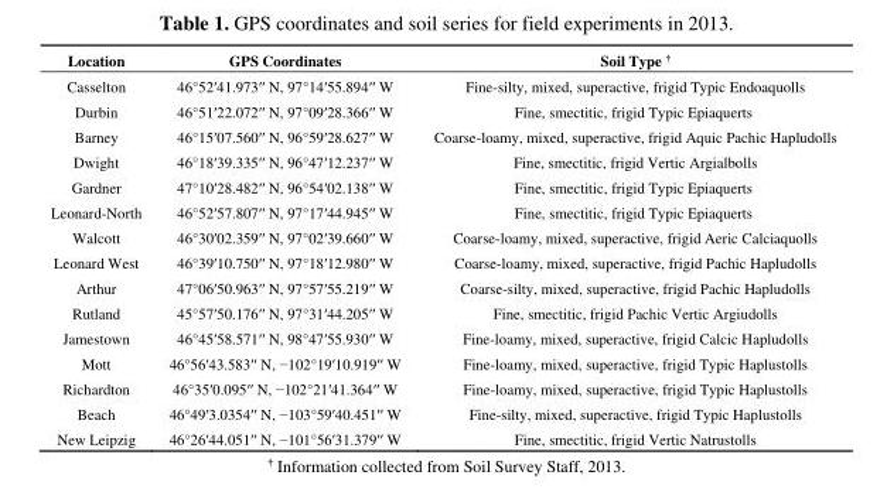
<table><thead><tr><td>Location</td><td>GPS Coordinates</td><td>Soil Type <sup>†</sup></td></tr></thead><tbody><tr><td>Casselton</td><td>46°52′41.973′′ N, 97°14′55.894′′ W</td><td>Fine-silty, mixed, superactive, frigid Typic Endoaquolls</td></tr><tr><td>Durbin</td><td>46°51′22.072′′ N, 97°09′28.366′′ W</td><td>Fine, smectitic, frigid Typic Epiaquerts</td></tr><tr><td>Barney</td><td>46°15′07.560′′ N, 96°59′28.627′′ W</td><td>Coarse-loamy, mixed, superactive, frigid Aquic Pachic Hapludolls</td></tr><tr><td>Dwight</td><td>46°18′39.335′′ N, 96°47′12.237′′ W</td><td>Fine, smectitic, frigid Vertic Argialbolls</td></tr><tr><td>Gardner</td><td>47°10′28.482′′ N, 96°54′02.138′′ W</td><td>Fine, smectitic, frigid Typic Epiaquerts</td></tr><tr><td>Leonard-North</td><td>46°52′57.807′′ N, 97°17′44.945′′ W</td><td>Fine, smectitic, frigid Typic Epiaquerts</td></tr><tr><td>Walcott</td><td>46°30′02.359′′ N, 97°02′39.660′′ W</td><td>Coarse-loamy, mixed, superactive, frigid Aeric Calciaquolls</td></tr><tr><td>Leonard West</td><td>46°39′10.750′′ N, 97°18′12.980′′ W</td><td>Coarse-loamy, mixed, superactive, frigid Pachic Hapludolls</td></tr><tr><td>Arthur</td><td>47°06′50.963′′ N, 97°57′55.219′′ W</td><td>Coarse-silty, mixed, superactive, frigid Pachic Hapludolls</td></tr><tr><td>Rutland</td><td>45°57′50.176′′ N, 97°31′44.205′′ W</td><td>Fine, smectitic, frigid Pachic Vertic Argiudolls</td></tr><tr><td>Jamestown</td><td>46°45′58.571′′ N, 98°47′55.930′′ W</td><td>Fine-loamy, mixed, superactive, frigid Calcic Hapludolls</td></tr><tr><td>Mott</td><td>46°56′43.583′′ N, −102°19′10.919′′ W</td><td>Fine-loamy, mixed, superactive, frigid Typic Haplustolls</td></tr><tr><td>Richardton</td><td>46°35′0.095′′ N, −102°21′41.364′′ W</td><td>Fine-loamy, mixed, superactive, frigid Typic Haplustolls</td></tr><tr><td>Beach</td><td>46°49′3.0354′′ N, −103°59′40.451′′ W</td><td>Fine-silty, mixed, superactive, frigid Typic Haplustolls</td></tr><tr><td>New Leipzig</td><td>46°26′44.051′′ N, −101°56′31.379′′ W</td><td>Fine, smectitic, frigid Vertic Natrustolls</td></tr></tbody></table>